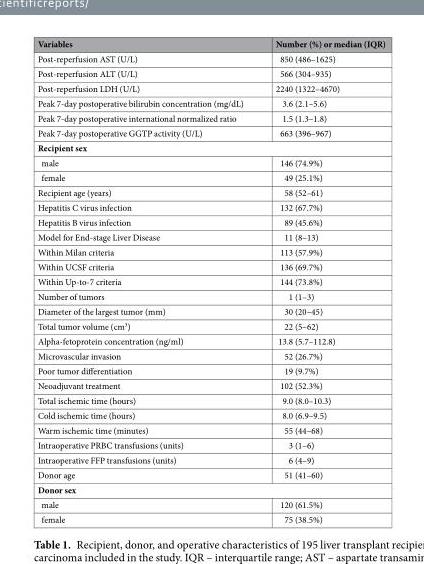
<table><thead><tr><td>Variables</td><td>Number (%) or median (IQR)</td></tr></thead><tbody><tr><td>Post-reperfusion AST (U/L)</td><td>850 (486–1625)</td></tr><tr><td>Post-reperfusion ALT (U/L)</td><td>566 (304–935)</td></tr><tr><td>Post-reperfusion LDH (U/L)</td><td>2240 (1322–4670)</td></tr><tr><td>Peak 7-day postoperative bilirubin concentration (mg/dL)</td><td>3.6 (2.1–5.6)</td></tr><tr><td>Peak 7-day postoperative international normalized ratio</td><td>1.5 (1.3–1.8)</td></tr><tr><td>Peak 7-day postoperative GGTP activity (U/L)</td><td>663 (396–967)</td></tr><tr><td colspan="2">Recipient sex</td></tr><tr><td>male</td><td>146 (74.9%)</td></tr><tr><td>female</td><td>49 (25.1%)</td></tr><tr><td>Recipient age (years)</td><td>58 (52–61)</td></tr><tr><td>Hepatitis C virus infection</td><td>132 (67.7%)</td></tr><tr><td>Hepatitis B virus infection</td><td>89 (45.6%)</td></tr><tr><td>Model for End-stage Liver Disease</td><td>11 (8–13)</td></tr><tr><td>Within Milan criteria</td><td>113 (57.9%)</td></tr><tr><td>Within UCSF criteria</td><td>136 (69.7%)</td></tr><tr><td>Within Up-to-7 criteria</td><td>144 (73.8%)</td></tr><tr><td>Number of tumors</td><td>1 (1–3)</td></tr><tr><td>Diameter of the largest tumor (mm)</td><td>30 (20–45)</td></tr><tr><td>Total tumor volume (cm<sup>3</sup>)</td><td>22 (5–62)</td></tr><tr><td>Alpha-fetoprotein concentration (ng/ml)</td><td>13.8 (5.7–112.8)</td></tr><tr><td>Microvascular invasion</td><td>52 (26.7%)</td></tr><tr><td>Poor tumor differentiation</td><td>19 (9.7%)</td></tr><tr><td>Neoadjuvant treatment</td><td>102 (52.3%)</td></tr><tr><td>Total ischemic time (hours)</td><td>9.0 (8.0–10.3)</td></tr><tr><td>Cold ischemic time (hours)</td><td>8.0 (6.9–9.5)</td></tr><tr><td>Warm ischemic time (minutes)</td><td>55 (44–68)</td></tr><tr><td>Intraoperative PRBC transfusions (units)</td><td>3 (1–6)</td></tr><tr><td>Intraoperative FFP transfusions (units)</td><td>6 (4–9)</td></tr><tr><td>Donor age</td><td>51 (41–60)</td></tr><tr><td colspan="2">Donor sex</td></tr><tr><td>male</td><td>120 (61.5%)</td></tr><tr><td>female</td><td>75 (38.5%)</td></tr></tbody></table>